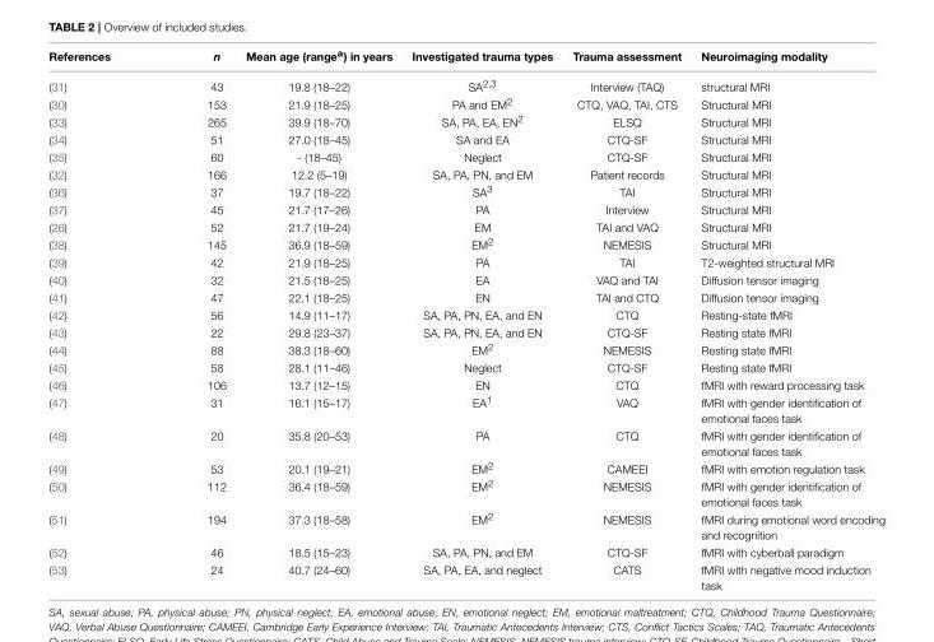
<table><thead><tr><td>References</td><td>n</td><td>Mean age (range<sup>a</sup>) in years</td><td>Investigated trauma types</td><td>Trauma assessment</td><td>Neuroimaging modality</td></tr></thead><tbody><tr><td>(31)</td><td>43</td><td>19.8 (18–22)</td><td>SA<sup>2,3</sup></td><td>Interview (TAQ)</td><td>structural MRI</td></tr><tr><td>(30)</td><td>153</td><td>21.9 (18–25)</td><td>PA and EM<sup>2</sup></td><td>CTQ, VAQ, TAI, CTS</td><td>Structural MRI</td></tr><tr><td>(33)</td><td>265</td><td>39.9 (18–70)</td><td>SA, PA, EA, EN<sup>2</sup></td><td>ELSQ</td><td>Structural MRI</td></tr><tr><td>(34)</td><td>51</td><td>27.0 (18–45)</td><td>SA and EA</td><td>CTQ-SF</td><td>Structural MRI</td></tr><tr><td>(35)</td><td>60</td><td>- (18–45)</td><td>Neglect</td><td>CTQ-SF</td><td>Structural MRI</td></tr><tr><td>(32)</td><td>166</td><td>12.2 (5–19)</td><td>SA, PA, PN, and EM</td><td>Patient records</td><td>Structural MRI</td></tr><tr><td>(36)</td><td>37</td><td>19.7 (18–22)</td><td>SA<sup>3</sup></td><td>TAI</td><td>Structural MRI</td></tr><tr><td>(37)</td><td>45</td><td>21.7 (17–26)</td><td>PA</td><td>Interview</td><td>Structural MRI</td></tr><tr><td>(26)</td><td>52</td><td>21.7 (19–24)</td><td>EM</td><td>TAI and VAQ</td><td>Structural MRI</td></tr><tr><td>(38)</td><td>145</td><td>36.9 (18–59)</td><td>EM<sup>2</sup></td><td>NEMESIS</td><td>Structural MRI</td></tr><tr><td>(39)</td><td>42</td><td>21.9 (18–25)</td><td>PA</td><td>TAI</td><td>T2-weighted structural MRI</td></tr><tr><td>(40)</td><td>32</td><td>21.5 (18–25)</td><td>EA</td><td>VAQ and TAI</td><td>Diffusion tensor imaging</td></tr><tr><td>(41)</td><td>47</td><td>22.1 (18–25)</td><td>EN</td><td>TAI and CTQ</td><td>Diffusion tensor imaging</td></tr><tr><td>(42)</td><td>56</td><td>14.9 (11–17)</td><td>SA, PA, PN, EA, and EN</td><td>CTQ</td><td>Resting-state fMRI</td></tr><tr><td>(43)</td><td>22</td><td>29.8 (23–37)</td><td>SA, PA, PN, EA, and EN</td><td>CTQ-SF</td><td>Resting state fMRI</td></tr><tr><td>(44)</td><td>88</td><td>38.3 (18–60)</td><td>EM<sup>2</sup></td><td>NEMESIS</td><td>Resting state fMRI</td></tr><tr><td>(45)</td><td>58</td><td>28.1 (11–46)</td><td>Neglect</td><td>CTQ-SF</td><td>Resting state fMRI</td></tr><tr><td>(46)</td><td>106</td><td>13.7 (12–15)</td><td>EN</td><td>CTQ</td><td>fMRI with reward processing task</td></tr><tr><td>(47)</td><td>31</td><td>16.1 (15–17)</td><td>EA<sup>1</sup></td><td>VAQ</td><td>fMRI with gender identification of emotional faces task</td></tr><tr><td>(48)</td><td>20</td><td>35.8 (20–53)</td><td>PA</td><td>CTQ</td><td>fMRI with gender identification of emotional faces task</td></tr><tr><td>(49)</td><td>53</td><td>20.1 (19–21)</td><td>EM<sup>2</sup></td><td>CAMEEI</td><td>fMRI with emotion regulation task</td></tr><tr><td>(50)</td><td>112</td><td>36.4 (18–59)</td><td>EM<sup>2</sup></td><td>NEMESIS</td><td>fMRI with gender identification of emotional faces task</td></tr><tr><td>(51)</td><td>194</td><td>37.3 (18–58)</td><td>EM<sup>2</sup></td><td>NEMESIS</td><td>fMRI during emotional word encoding and recognition</td></tr><tr><td>(52)</td><td>46</td><td>18.5 (15–23)</td><td>SA, PA, PN, and EM</td><td>CTQ-SF</td><td>fMRI with cyberball paradigm</td></tr><tr><td>(53)</td><td>24</td><td>40.7 (24–60)</td><td>SA, PA, EA, and neglect</td><td>CATS</td><td>fMRI with negative mood induction task</td></tr></tbody></table>